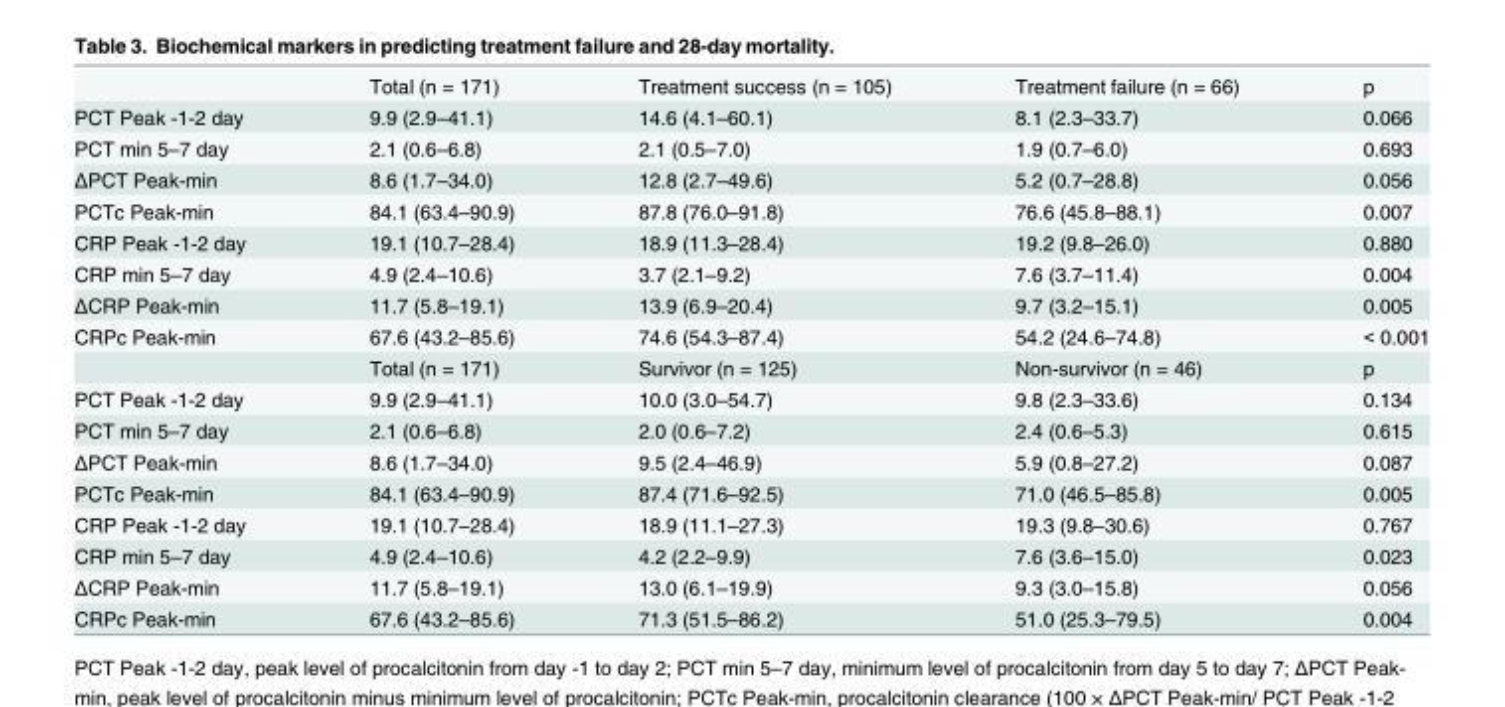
<table><thead><tr><td></td><td>Total (n = 171)</td><td>Treatment success (n = 105)</td><td>Treatment failure (n = 66)</td><td>p</td></tr></thead><tbody><tr><td>PCT Peak -1-2 day</td><td>9.9 (2.9–41.1)</td><td>14.6 (4.1–60.1)</td><td>8.1 (2.3–33.7)</td><td>0.066</td></tr><tr><td>PCT min 5–7 day</td><td>2.1 (0.6–6.8)</td><td>2.1 (0.5–7.0)</td><td>1.9 (0.7–6.0)</td><td>0.693</td></tr><tr><td>ΔPCT Peak-min</td><td>8.6 (1.7–34.0)</td><td>12.8 (2.7–49.6)</td><td>5.2 (0.7–28.8)</td><td>0.056</td></tr><tr><td>PCTc Peak-min</td><td>84.1 (63.4–90.9)</td><td>87.8 (76.0–91.8)</td><td>76.6 (45.8–88.1)</td><td>0.007</td></tr><tr><td>CRP Peak -1-2 day</td><td>19.1 (10.7–28.4)</td><td>18.9 (11.3–28.4)</td><td>19.2 (9.8–26.0)</td><td>0.880</td></tr><tr><td>CRP min 5–7 day</td><td>4.9 (2.4–10.6)</td><td>3.7 (2.1–9.2)</td><td>7.6 (3.7–11.4)</td><td>0.004</td></tr><tr><td>ΔCRP Peak-min</td><td>11.7 (5.8–19.1)</td><td>13.9 (6.9–20.4)</td><td>9.7 (3.2–15.1)</td><td>0.005</td></tr><tr><td rowspan="2">CRPc Peak-min</td><td>67.6 (43.2–85.6)</td><td>74.6 (54.3–87.4)</td><td>54.2 (24.6–74.8)</td><td>&lt; 0.001</td></tr><tr><td>Total (n = 171)</td><td>Survivor (n = 125)</td><td>Non-survivor (n = 46)</td><td>p</td></tr><tr><td>PCT Peak -1-2 day</td><td>9.9 (2.9–41.1)</td><td>10.0 (3.0–54.7)</td><td>9.8 (2.3–33.6)</td><td>0.134</td></tr><tr><td>PCT min 5–7 day</td><td>2.1 (0.6–6.8)</td><td>2.0 (0.6–7.2)</td><td>2.4 (0.6–5.3)</td><td>0.615</td></tr><tr><td>ΔPCT Peak-min</td><td>8.6 (1.7–34.0)</td><td>9.5 (2.4–46.9)</td><td>5.9 (0.8–27.2)</td><td>0.087</td></tr><tr><td>PCTc Peak-min</td><td>84.1 (63.4–90.9)</td><td>87.4 (71.6–92.5)</td><td>71.0 (46.5–85.8)</td><td>0.005</td></tr><tr><td>CRP Peak -1-2 day</td><td>19.1 (10.7–28.4)</td><td>18.9 (11.1–27.3)</td><td>19.3 (9.8–30.6)</td><td>0.767</td></tr><tr><td>CRP min 5–7 day</td><td>4.9 (2.4–10.6)</td><td>4.2 (2.2–9.9)</td><td>7.6 (3.6–15.0)</td><td>0.023</td></tr><tr><td>ΔCRP Peak-min</td><td>11.7 (5.8–19.1)</td><td>13.0 (6.1–19.9)</td><td>9.3 (3.0–15.8)</td><td>0.056</td></tr><tr><td>CRPc Peak-min</td><td>67.6 (43.2–85.6)</td><td>71.3 (51.5–86.2)</td><td>51.0 (25.3–79.5)</td><td>0.004</td></tr></tbody></table>